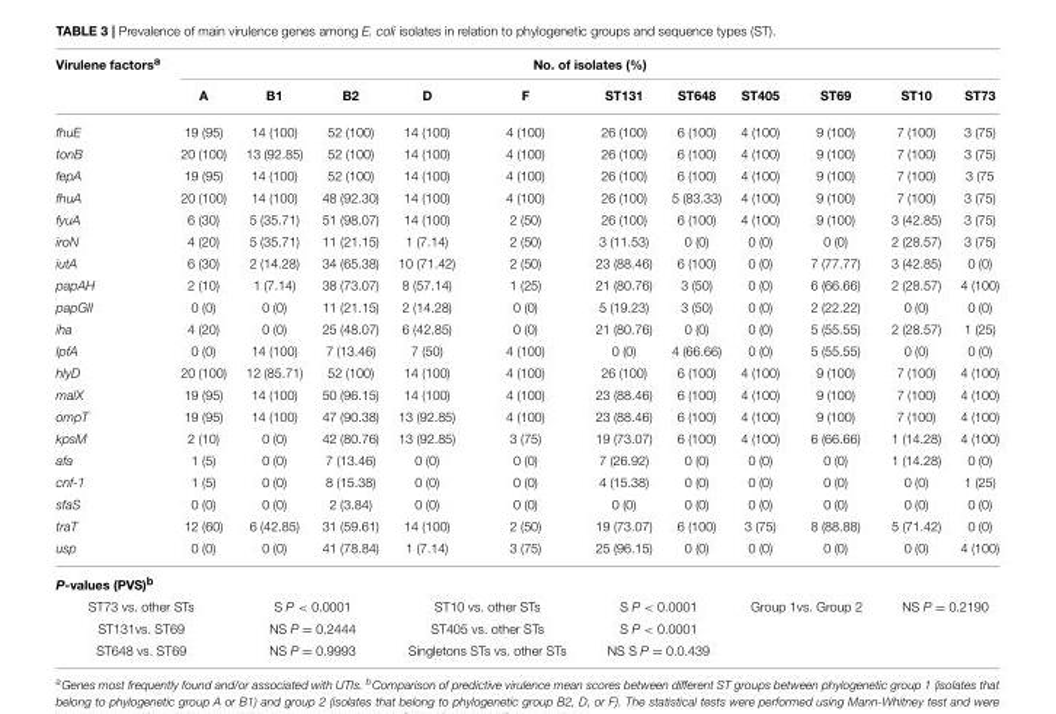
<table><thead><tr><td rowspan="2">Virulene factors<sup>a</sup></td><td colspan="11">No. of isolates (%)</td></tr><tr><td>A</td><td>B1</td><td>B2</td><td>D</td><td>F</td><td>ST131</td><td>ST648</td><td>ST405</td><td>ST69</td><td>ST10</td><td>ST73</td></tr></thead><tbody><tr><td>fhuE</td><td>19 (95)</td><td>14 (100)</td><td>52 (100)</td><td>14 (100)</td><td>4 (100)</td><td>26 (100)</td><td>6 (100)</td><td>4 (100)</td><td>9 (100)</td><td>7 (100)</td><td>3 (75)</td></tr><tr><td>tonB</td><td>20 (100)</td><td>13 (92.85)</td><td>52 (100)</td><td>14 (100)</td><td>4 (100)</td><td>26 (100)</td><td>6 (100)</td><td>4 (100)</td><td>9 (100)</td><td>7 (100)</td><td>3 (75)</td></tr><tr><td>fepA</td><td>19 (95)</td><td>14 (100)</td><td>52 (100)</td><td>14 (100)</td><td>4 (100)</td><td>26 (100)</td><td>6 (100)</td><td>4 (100)</td><td>9 (100)</td><td>7 (100)</td><td>3 (75</td></tr><tr><td>fhuA</td><td>20 (100)</td><td>14 (100)</td><td>48 (92.30)</td><td>14 (100)</td><td>4 (100)</td><td>26 (100)</td><td>5 (83.33)</td><td>4 (100)</td><td>9 (100)</td><td>7 (100)</td><td>3 (75)</td></tr><tr><td>fyuA</td><td>6 (30)</td><td>5 (35.71)</td><td>51 (98.07)</td><td>14 (100)</td><td>2 (50)</td><td>26 (100)</td><td>6 (100)</td><td>4 (100)</td><td>9 (100)</td><td>3 (42.85)</td><td>3 (75)</td></tr><tr><td>iroN</td><td>4 (20)</td><td>5 (35.71)</td><td>11 (21.15)</td><td>1 (7.14)</td><td>2 (50)</td><td>3 (11.53)</td><td>0 (0)</td><td>0 (0)</td><td>0 (0)</td><td>2 (28.57)</td><td>3 (75)</td></tr><tr><td>iutA</td><td>6 (30)</td><td>2 (14.28)</td><td>34 (65.38)</td><td>10 (71.42)</td><td>2 (50)</td><td>23 (88.46)</td><td>6 (100)</td><td>0 (0)</td><td>7 (77.77)</td><td>3 (42.85)</td><td>0 (0)</td></tr><tr><td>papAH</td><td>2 (10)</td><td>1 (7.14)</td><td>38 (73.07)</td><td>8 (57.14)</td><td>1 (25)</td><td>21 (80.76)</td><td>3 (50)</td><td>0 (0)</td><td>6 (66.66)</td><td>2 (28.57)</td><td>4 (100)</td></tr><tr><td>papGII</td><td>0 (0)</td><td>0 (0)</td><td>11 (21.15)</td><td>2 (14.28)</td><td>0 (0)</td><td>5 (19.23)</td><td>3 (50)</td><td>0 (0)</td><td>2 (22.22)</td><td>0 (0)</td><td>0 (0)</td></tr><tr><td>iha</td><td>4 (20)</td><td>0 (0)</td><td>25 (48.07)</td><td>6 (42.85)</td><td>0 (0)</td><td>21 (80.76)</td><td>0 (0)</td><td>0 (0)</td><td>5 (55.55)</td><td>2 (28.57)</td><td>1 (25)</td></tr><tr><td>IpfA</td><td>0 (0)</td><td>14 (100)</td><td>7 (13.46)</td><td>7 (50)</td><td>4 (100)</td><td>0 (0)</td><td>4 (66.66)</td><td>0 (0)</td><td>5 (55.55)</td><td>0 (0)</td><td>0 (0)</td></tr><tr><td>hlyD</td><td>20 (100)</td><td>12 (85.71)</td><td>52 (100)</td><td>14 (100)</td><td>4 (100)</td><td>26 (100)</td><td>6 (100)</td><td>4 (100)</td><td>9 (100)</td><td>7 (100)</td><td>4 (100)</td></tr><tr><td>malX</td><td>19 (95)</td><td>14 (100)</td><td>50 (96.15)</td><td>14 (100)</td><td>4 (100)</td><td>23 (88.46)</td><td>6 (100)</td><td>4 (100)</td><td>9 (100)</td><td>7 (100)</td><td>4 (100)</td></tr><tr><td>ompT</td><td>19 (95)</td><td>14 (100)</td><td>47 (90.38)</td><td>13 (92.85)</td><td>4 (100)</td><td>23 (88.46)</td><td>6 (100)</td><td>4 (100)</td><td>9 (100)</td><td>7 (100)</td><td>4 (100)</td></tr><tr><td>kpsM</td><td>2 (10)</td><td>0 (0)</td><td>42 (80.76)</td><td>13 (92.85)</td><td>3 (75)</td><td>19 (73.07)</td><td>6 (100)</td><td>4 (100)</td><td>6 (66.66)</td><td>1 (14.28)</td><td>4 (100)</td></tr><tr><td>afa</td><td>1 (5)</td><td>0 (0)</td><td>7 (13.46)</td><td>0 (0)</td><td>0 (0)</td><td>7 (26.92)</td><td>0 (0)</td><td>0 (0)</td><td>0 (0)</td><td>1 (14.28)</td><td>0 (0)</td></tr><tr><td>cnf-1</td><td>1 (5)</td><td>0 (0)</td><td>8 (15.38)</td><td>0 (0)</td><td>0 (0)</td><td>4 (15.38)</td><td>0 (0)</td><td>0 (0)</td><td>0 (0)</td><td>0 (0)</td><td>1 (25)</td></tr><tr><td>sfaS</td><td>0 (0)</td><td>0 (0)</td><td>2 (3.84)</td><td>0 (0)</td><td>0 (0)</td><td>0 (0)</td><td>0 (0)</td><td>0 (0)</td><td>0 (0)</td><td>0 (0)</td><td>0 (0)</td></tr><tr><td>traT</td><td>12 (60)</td><td>6 (42.85)</td><td>31 (59.61)</td><td>14 (100)</td><td>2 (50)</td><td>19 (73.07)</td><td>6 (100)</td><td>3 (75)</td><td>8 (88.88)</td><td>5 (71.42)</td><td>0 (0)</td></tr><tr><td>usp</td><td>0 (0)</td><td>0 (0)</td><td>41 (78.84)</td><td>1 (7.14)</td><td>3 (75)</td><td>25 (96.15)</td><td>0 (0)</td><td>0 (0)</td><td>0 (0)</td><td>0 (0)</td><td>4 (100)</td></tr><tr><td colspan="12">P-values (PVS)<sup>b</sup></td></tr><tr><td colspan="2">ST73 vs. other STs</td><td colspan="2">S P &lt; 0.0001</td><td colspan="2">ST10 vs. other STs</td><td colspan="2">S P &lt; 0.0001</td><td colspan="2">Group 1vs. Group 2</td><td colspan="2">NS P = 0.2190</td></tr><tr><td colspan="2">ST131vs. ST69</td><td colspan="2">NS P = 0.2444</td><td colspan="2">ST405 vs. other STs</td><td colspan="2">S P &lt; 0.0001</td><td></td><td></td><td></td><td></td></tr><tr><td colspan="2">ST648 vs. ST69</td><td colspan="2">NS P = 0.9993</td><td colspan="2">Singletons STs vs. other STs</td><td colspan="2">NS S P = 0.0.439</td><td></td><td></td><td></td><td></td></tr></tbody></table>